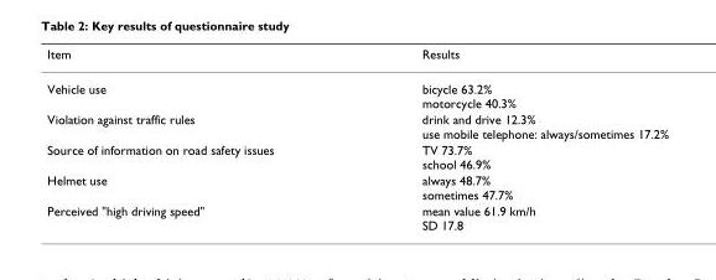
<table><thead><tr><td>Item</td><td>Results</td></tr></thead><tbody><tr><td>Vehicle use</td><td>bicycle 63.2% motorcycle 40.3%</td></tr><tr><td>Violation against traffic rules</td><td>drink and drive 12.3% use mobile telephone: always/sometimes 17.2%</td></tr><tr><td>Source of information on road safety issues</td><td>TV 73.7% school 46.9%</td></tr><tr><td>Helmet use</td><td>always 48.7% sometimes 47.7%</td></tr><tr><td>Perceived &quot;high driving speed&quot;</td><td>mean value 61.9 km/h SD 17.8</td></tr></tbody></table>